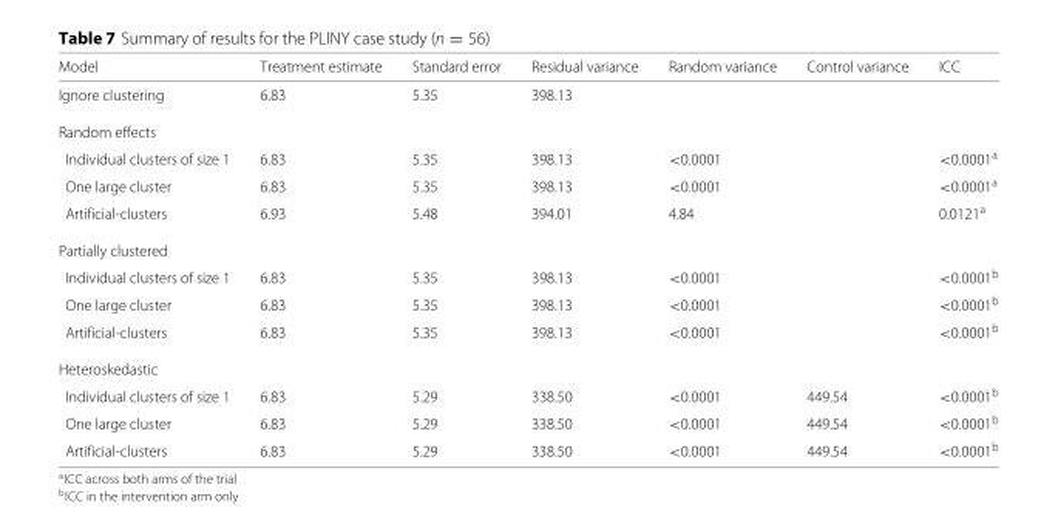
<table><thead><tr><td>Model</td><td>Treatment estimate</td><td>Standard error</td><td>Residual variance</td><td>Random variance</td><td>Control variance</td><td>ICC</td></tr></thead><tbody><tr><td>Ignore clustering</td><td>6.83</td><td>5.35</td><td>398.13</td><td></td><td></td><td></td></tr><tr><td colspan="7">Random effects</td></tr><tr><td>Individual clusters of size 1</td><td>6.83</td><td>5.35</td><td>398.13</td><td>&lt;0.0001</td><td></td><td>&lt;0.0001<sup>a</sup></td></tr><tr><td>One large cluster</td><td>6.83</td><td>5.35</td><td>398.13</td><td>&lt;0.0001</td><td></td><td>&lt;0.0001<sup>a</sup></td></tr><tr><td>Artificial-clusters</td><td>6.93</td><td>5.48</td><td>394.01</td><td>4.84</td><td></td><td>0.0121<sup>a</sup></td></tr><tr><td colspan="7">Partially clustered</td></tr><tr><td>Individual clusters of size 1</td><td>6.83</td><td>5.35</td><td>398.13</td><td>&lt;0.0001</td><td></td><td>&lt;0.0001<sup>b</sup></td></tr><tr><td>One large cluster</td><td>6.83</td><td>5.35</td><td>398.13</td><td>&lt;0.0001</td><td></td><td>&lt;0.0001<sup>b</sup></td></tr><tr><td>Artificial-clusters</td><td>6.83</td><td>5.35</td><td>398.13</td><td>&lt;0.0001</td><td></td><td>&lt;0.0001<sup>b</sup></td></tr><tr><td colspan="7">Heteroskedastic</td></tr><tr><td>Individual clusters of size 1</td><td>6.83</td><td>5.29</td><td>338.50</td><td>&lt;0.0001</td><td>449.54</td><td>&lt;0.0001<sup>b</sup></td></tr><tr><td>One large cluster</td><td>6.83</td><td>5.29</td><td>338.50</td><td>&lt;0.0001</td><td>449.54</td><td>&lt;0.0001<sup>b</sup></td></tr><tr><td>Artificial-clusters</td><td>6.83</td><td>5.29</td><td>338.50</td><td>&lt;0.0001</td><td>449.54</td><td>&lt;0.0001<sup>b</sup></td></tr></tbody></table>